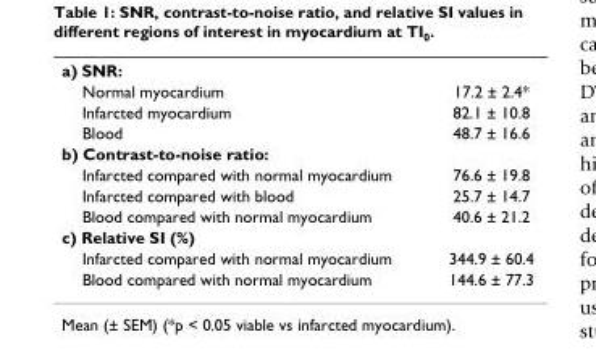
<table><tbody><tr><td colspan="2">a) SNR:</td></tr><tr><td>Normal myocardium</td><td>17.2 ± 2.4*</td></tr><tr><td>Infarcted myocardium</td><td>82.1 ± 10.8</td></tr><tr><td>Blood</td><td>48.7 ± 16.6</td></tr><tr><td colspan="2">b) Contrast-to-noise ratio:</td></tr><tr><td>Infarcted compared with normal myocardium</td><td>76.6 ± 19.8</td></tr><tr><td>Infarcted compared with blood</td><td>25.7 ± 14.7</td></tr><tr><td>Blood compared with normal myocardium</td><td>40.6 ± 21.2</td></tr><tr><td colspan="2">c) Relative SI (%)</td></tr><tr><td>Infarcted compared with normal myocardium</td><td>344.9 ± 60.4</td></tr><tr><td>Blood compared with normal myocardium</td><td>144.6 ± 77.3</td></tr></tbody></table>